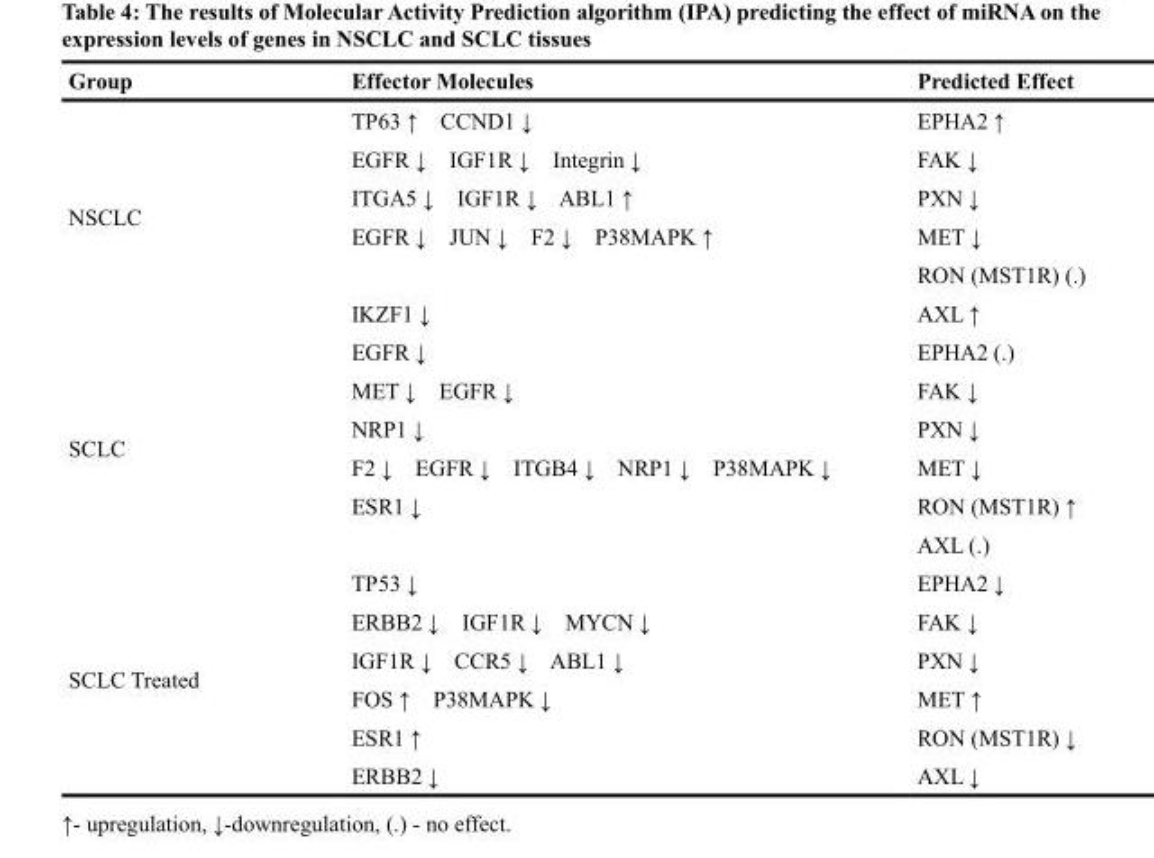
<table><thead><tr><td>Group</td><td>Effector Molecules</td><td>Predicted Effect</td></tr></thead><tbody><tr><td rowspan="4">NSCLC</td><td>TP63 ↑ CCND1 ↓</td><td>EPHA2 ↑</td></tr><tr><td>EGFR ↓ IGF1R ↓ Integrin ↓</td><td>FAK ↓</td></tr><tr><td>ITGA5 ↓ IGF1R ↓ ABL1 ↑</td><td>PXN ↓</td></tr><tr><td>EGFR ↓ JUN ↓ F2 ↓ P38MAPK ↑</td><td>MET ↓</td></tr><tr><td colspan="2"></td><td>RON (MST1R) (.)</td></tr><tr><td rowspan="6">SCLC</td><td>IKZF1 ↓</td><td>AXL ↑</td></tr><tr><td>EGFR ↓</td><td>EPHA2 (.)</td></tr><tr><td>MET ↓ EGFR ↓</td><td>FAK ↓</td></tr><tr><td>NRP1 ↓</td><td>PXN ↓</td></tr><tr><td>F2 ↓ EGFR ↓ ITGB4 ↓ NRP1 ↓ P38MAPK ↓</td><td>MET ↓</td></tr><tr><td>ESR1 ↓</td><td>RON (MST1R) ↑</td></tr><tr><td colspan="2"></td><td>AXL (.)</td></tr><tr><td rowspan="6">SCLC Treated</td><td>TP53 ↓</td><td>EPHA2 ↓</td></tr><tr><td>ERBB2 ↓ IGF1R ↓ MYCN ↓</td><td>FAK ↓</td></tr><tr><td>IGF1R ↓ CCR5 ↓ ABL1 ↓</td><td>PXN ↓</td></tr><tr><td>FOS ↑ P38MAPK ↓</td><td>MET ↑</td></tr><tr><td>ESR1 ↑</td><td>RON (MST1R) ↓</td></tr><tr><td>ERBB2 ↓</td><td>AXL ↓</td></tr></tbody></table>